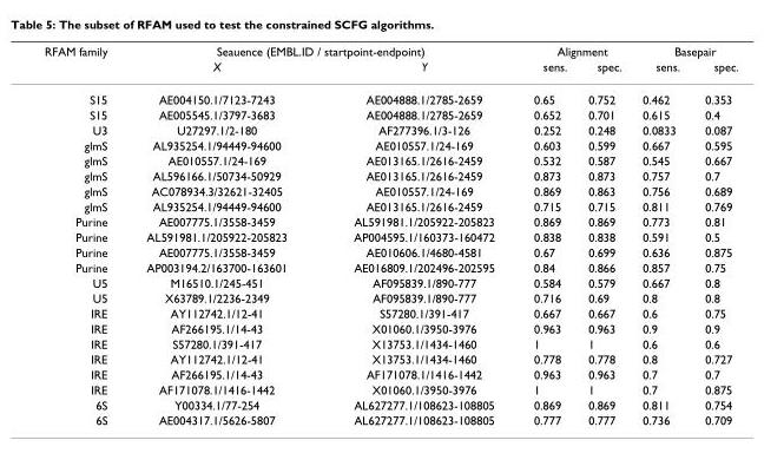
<table><thead><tr><td rowspan="2">RFAM family</td><td colspan="2">Seauence (EMBL.ID / startpoint-endpoint)</td><td colspan="2">Alignment</td><td colspan="2">Basepair</td></tr><tr><td>X</td><td>Y</td><td>sens.</td><td>spec.</td><td>sens.</td><td>spec.</td></tr></thead><tbody><tr><td>S15</td><td>AE004150.1/7123-7243</td><td>AE004888.1/2785-2659</td><td>0.65</td><td>0.752</td><td>0.462</td><td>0.353</td></tr><tr><td>S15</td><td>AE005545.1/3797-3683</td><td>AE004888.1/2785-2659</td><td>0.652</td><td>0.701</td><td>0.615</td><td>0.4</td></tr><tr><td>U3</td><td>U27297.1/2-180</td><td>AF277396.1/3-126</td><td>0.252</td><td>0.248</td><td>0.0833</td><td>0.087</td></tr><tr><td>glmS</td><td>AL935254.1/94449-94600</td><td>AE010557.1/24-169</td><td>0.603</td><td>0.599</td><td>0.667</td><td>0.595</td></tr><tr><td>glmS</td><td>AE010557.1/24-169</td><td>AE013165.1/2616-2459</td><td>0.532</td><td>0.587</td><td>0.545</td><td>0.667</td></tr><tr><td>glmS</td><td>AL596166.1/50734-50929</td><td>AE013165.1/2616-2459</td><td>0.873</td><td>0.873</td><td>0.757</td><td>0.7</td></tr><tr><td>glmS</td><td>AC078934.3/32621-32405</td><td>AE010557.1/24-169</td><td>0.869</td><td>0.863</td><td>0.756</td><td>0.689</td></tr><tr><td>glmS</td><td>AL935254.1/94449-94600</td><td>AE013165.1/2616-2459</td><td>0.715</td><td>0.715</td><td>0.811</td><td>0.769</td></tr><tr><td>Purine</td><td>AE007775.1/3558-3459</td><td>AL591981.1/205922-205823</td><td>0.869</td><td>0.869</td><td>0.773</td><td>0.81</td></tr><tr><td>Purine</td><td>AL591981.1/205922-205823</td><td>AP004595.1/160373-160472</td><td>0.838</td><td>0.838</td><td>0.591</td><td>0.5</td></tr><tr><td>Purine</td><td>AE007775.1/3558-3459</td><td>AE010606.1/4680-4581</td><td>0.67</td><td>0.699</td><td>0.636</td><td>0.875</td></tr><tr><td>Purine</td><td>AP003194.2/163700-163601</td><td>AE016809.1/202496-202595</td><td>0.84</td><td>0.866</td><td>0.857</td><td>0.75</td></tr><tr><td>U5</td><td>M16510.1/245-451</td><td>AF095839.1/890-777</td><td>0.584</td><td>0.579</td><td>0.667</td><td>0.8</td></tr><tr><td>U5</td><td>X63789.1/2236-2349</td><td>AF095839.1/890-777</td><td>0.716</td><td>0.69</td><td>0.8</td><td>0.8</td></tr><tr><td>IRE</td><td>AY112742.1/12-41</td><td>S57280.1/391-417</td><td>0.667</td><td>0.667</td><td>0.6</td><td>0.75</td></tr><tr><td>IRE</td><td>AF266195.1/14-43</td><td>X01060.1/3950-3976</td><td>0.963</td><td>0.963</td><td>0.9</td><td>0.9</td></tr><tr><td>IRE</td><td>S57280.1/391-417</td><td>X13753.1/1434-1460</td><td>1</td><td>1</td><td>0.6</td><td>0.6</td></tr><tr><td>IRE</td><td>AY112742.1/12-41</td><td>X13753.1/1434-1460</td><td>0.778</td><td>0.778</td><td>0.8</td><td>0.727</td></tr><tr><td>IRE</td><td>AF266195.1/14-43</td><td>AF171078.1/1416-1442</td><td>0.963</td><td>0.963</td><td>0.7</td><td>0.7</td></tr><tr><td>IRE</td><td>AF171078.1/1416-1442</td><td>X01060.1/3950-3976</td><td>1</td><td>1</td><td>0.7</td><td>0.875</td></tr><tr><td>6S</td><td>Y00334.1/77-254</td><td>AL627277.1/108623-108805</td><td>0.869</td><td>0.869</td><td>0.811</td><td>0.754</td></tr><tr><td>6S</td><td>AE004317.1/5626-5807</td><td>AL627277.1/108623-108805</td><td>0.777</td><td>0.777</td><td>0.736</td><td>0.709</td></tr></tbody></table>